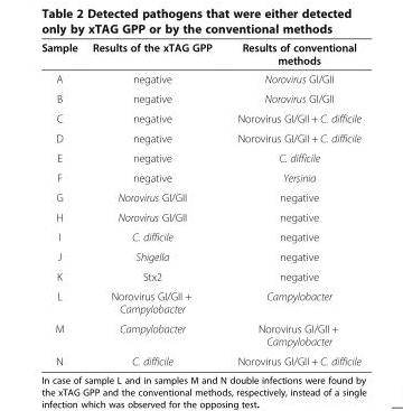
<table><thead><tr><td>Sample</td><td>Results of the xTAG GPP</td><td>Results of conventional methods</td></tr></thead><tbody><tr><td>A</td><td>negative</td><td>Norovirus GI/GII</td></tr><tr><td>B</td><td>negative</td><td>Norovirus GI/GII</td></tr><tr><td>C</td><td>negative</td><td>Norovirus GI/GII + C. difficile</td></tr><tr><td>D</td><td>negative</td><td>Norovirus GI/GII + C. difficile</td></tr><tr><td>E</td><td>negative</td><td>C. difficile</td></tr><tr><td>F</td><td>negative</td><td>Yersinia</td></tr><tr><td>G</td><td>Norovirus GI/GII</td><td>negative</td></tr><tr><td>H</td><td>Norovirus GI/GII</td><td>negative</td></tr><tr><td>I</td><td>C. difficile</td><td>negative</td></tr><tr><td>J</td><td>Shigella</td><td>negative</td></tr><tr><td>K</td><td>Stx2</td><td>negative</td></tr><tr><td>L</td><td>Norovirus GI/GII + Campylobacter</td><td>Campylobacter</td></tr><tr><td>M</td><td>Campylobacter</td><td>Norovirus GI/GII + Campylobacter</td></tr><tr><td>N</td><td>C. difficile</td><td>Norovirus GI/GII + C. difficile</td></tr></tbody></table>